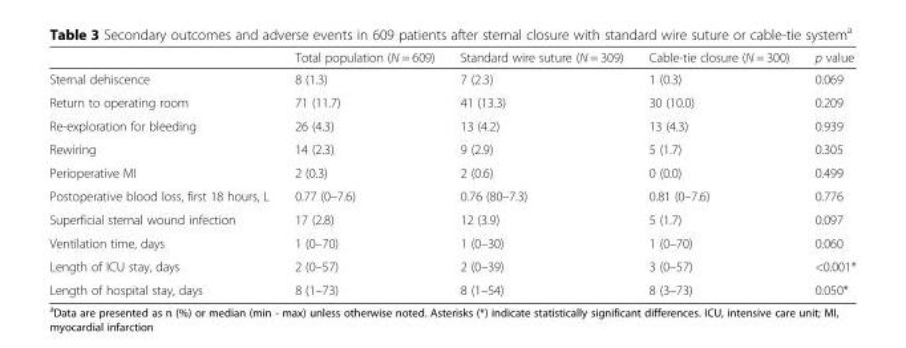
<table><thead><tr><td></td><td>Total population (N = 609)</td><td>Standard wire suture (N = 309)</td><td>Cable-tie closure (N = 300)</td><td>p value</td></tr></thead><tbody><tr><td>Sternal dehiscence</td><td>8 (1.3)</td><td>7 (2.3)</td><td>1 (0.3)</td><td>0.069</td></tr><tr><td>Return to operating room</td><td>71 (11.7)</td><td>41 (13.3)</td><td>30 (10.0)</td><td>0.209</td></tr><tr><td>Re-exploration for bleeding</td><td>26 (4.3)</td><td>13 (4.2)</td><td>13 (4.3)</td><td>0.939</td></tr><tr><td>Rewiring</td><td>14 (2.3)</td><td>9 (2.9)</td><td>5 (1.7)</td><td>0.305</td></tr><tr><td>Perioperative MI</td><td>2 (0.3)</td><td>2 (0.6)</td><td>0 (0.0)</td><td>0.499</td></tr><tr><td>Postoperative blood loss, first 18 hours, L</td><td>0.77 (0–7.6)</td><td>0.76 (80–7.3)</td><td>0.81 (0–7.6)</td><td>0.776</td></tr><tr><td>Superficial sternal wound infection</td><td>17 (2.8)</td><td>12 (3.9)</td><td>5 (1.7)</td><td>0.097</td></tr><tr><td>Ventilation time, days</td><td>1 (0–70)</td><td>1 (0–30)</td><td>1 (0–70)</td><td>0.060</td></tr><tr><td>Length of ICU stay, days</td><td>2 (0–57)</td><td>2 (0–39)</td><td>3 (0–57)</td><td>&lt;0.001*</td></tr><tr><td>Length of hospital stay, days</td><td>8 (1–73)</td><td>8 (1–54)</td><td>8 (3–73)</td><td>0.050*</td></tr></tbody></table>